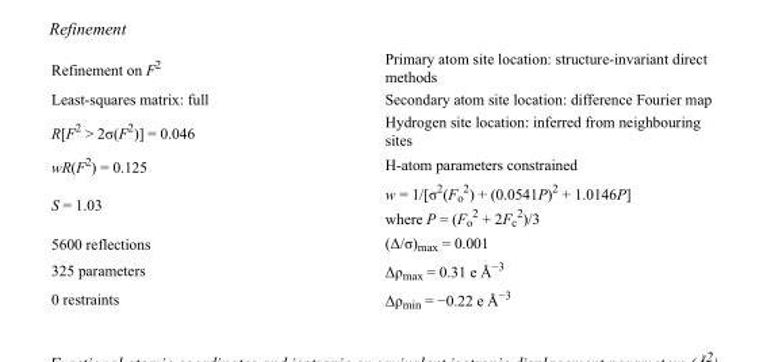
<table><tbody><tr><td>Refinement on F<sup>2</sup></td><td>Primary atom site location: structure-invariant direct methods</td></tr><tr><td>Least-squares matrix: full</td><td>Secondary atom site location: difference Fourier map</td></tr><tr><td>R[F<sup>2</sup> &gt; 2σ(F<sup>2</sup>)] = 0.046</td><td>Hydrogen site location: inferred from neighbouring sites</td></tr><tr><td>wR(F<sup>2</sup>) = 0.125</td><td>H-atom parameters constrained</td></tr><tr><td>S = 1.03</td><td>w = 1/[σ<sup>2</sup>(F<sub>o</sub> <sup>2</sup>) + (0.0541P)<sup>2</sup> + 1.0146P] where P = (F<sub>o</sub> <sup>2</sup> + 2F<sub>c</sub> <sup>2</sup>)/3</td></tr><tr><td>5600 reflections</td><td>(Δ/σ)<sub>max</sub> = 0.001</td></tr><tr><td>325 parameters</td><td>Δρ<sub>max</sub> = 0.31 e Å<sup>−3</sup></td></tr><tr><td>0 restraints</td><td>Δρ<sub>min</sub> = −0.22 e Å<sup>−3</sup></td></tr></tbody></table>